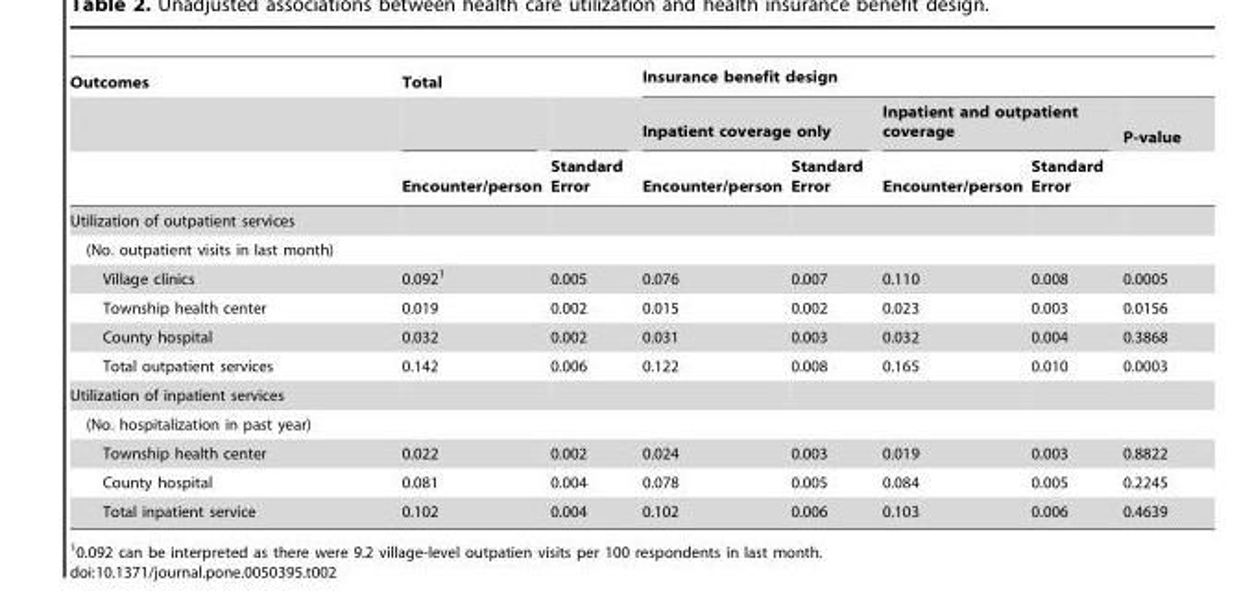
<table><thead><tr><td rowspan="3">Outcomes</td><td colspan="2">Total</td><td colspan="5">Insurance benefit design</td></tr><tr><td rowspan="2">Encounter/person</td><td rowspan="2">Standard Error</td><td colspan="2">Inpatient coverage only</td><td colspan="2">Inpatient and outpatient coverage</td><td rowspan="2">P-value</td></tr><tr><td>Encounter/person</td><td>Standard Error</td><td>Encounter/person</td><td>Standard Error</td></tr></thead><tbody><tr><td colspan="8">Utilization of outpatient services</td></tr><tr><td colspan="8">(No. outpatient visits in last month)</td></tr><tr><td>Village clinics</td><td>0.092<sup>1</sup></td><td>0.005</td><td>0.076</td><td>0.007</td><td>0.110</td><td>0.008</td><td>0.0005</td></tr><tr><td>Township health center</td><td>0.019</td><td>0.002</td><td>0.015</td><td>0.002</td><td>0.023</td><td>0.003</td><td>0.0156</td></tr><tr><td>County hospital</td><td>0.032</td><td>0.002</td><td>0.031</td><td>0.003</td><td>0.032</td><td>0.004</td><td>0.3868</td></tr><tr><td>Total outpatient services</td><td>0.142</td><td>0.006</td><td>0.122</td><td>0.008</td><td>0.165</td><td>0.010</td><td>0.0003</td></tr><tr><td colspan="8">Utilization of inpatient services</td></tr><tr><td colspan="8">(No. hospitalization in past year)</td></tr><tr><td>Township health center</td><td>0.022</td><td>0.002</td><td>0.024</td><td>0.003</td><td>0.019</td><td>0.003</td><td>0.8822</td></tr><tr><td>County hospital</td><td>0.081</td><td>0.004</td><td>0.078</td><td>0.005</td><td>0.084</td><td>0.005</td><td>0.2245</td></tr><tr><td>Total inpatient service</td><td>0.102</td><td>0.004</td><td>0.102</td><td>0.006</td><td>0.103</td><td>0.006</td><td>0.4639</td></tr></tbody></table>